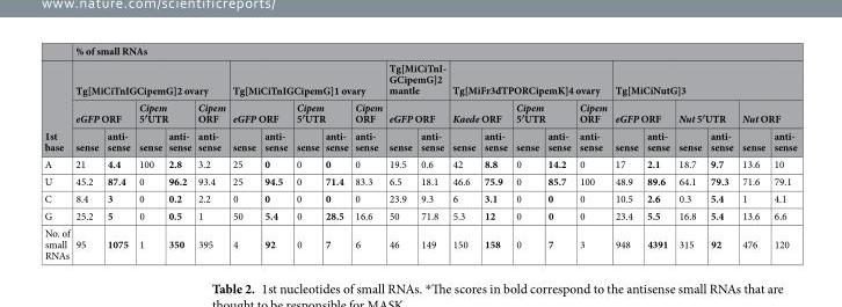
<table><thead><tr><td rowspan="4">1st base</td><td colspan="23">% of small RNAs</td></tr><tr><td colspan="5">Tg[MiCiTnIGCipemG]2 ovary</td><td colspan="5">Tg[MiCiTnIGCipemG]1 ovary</td><td rowspan="2" colspan="2">Tg[MiCiTnI- GCipemG]2 mantle eGFP ORF</td><td colspan="5">Tg[MiFr3dTPORCipemK]4 ovary</td><td colspan="6">Tg[MiCiNutG]3</td></tr><tr><td colspan="2">eGFP ORF</td><td colspan="2">Cipem 5′UTR</td><td rowspan="2">Cipem ORF anti- sense</td><td colspan="2">eGFP ORF</td><td colspan="2">Cipem 5′UTR</td><td rowspan="2">Cipem ORF anti- sense</td><td colspan="2">Kaede ORF</td><td colspan="2">Cipem 5′UTR</td><td rowspan="2">Cipem ORF anti- sense</td><td colspan="2">eGFP ORF</td><td colspan="2">Nut 5′UTR</td><td colspan="2">Nut ORF</td></tr><tr><td>sense</td><td>anti- sense</td><td>sense</td><td>anti- sense</td><td>sense</td><td>anti- sense</td><td>sense</td><td>anti- sense</td><td>sense</td><td>anti- sense</td><td>sense</td><td>anti- sense</td><td>sense</td><td>anti- sense</td><td>sense</td><td>anti- sense</td><td>sense</td><td>anti- sense</td><td>sense</td><td>anti- sense</td></tr></thead><tbody><tr><td>A</td><td>21</td><td>4.4</td><td>100</td><td>2.8</td><td>3.2</td><td>25</td><td>0</td><td>0</td><td>0</td><td>0</td><td>19.5</td><td>0.6</td><td>42</td><td>8.8</td><td>0</td><td>14.2</td><td>0</td><td>17</td><td>2.1</td><td>18.7</td><td>9.7</td><td>13.6</td><td>10</td></tr><tr><td>U</td><td>45.2</td><td>87.4</td><td>0</td><td>96.2</td><td>93.4</td><td>25</td><td>94.5</td><td>0</td><td>71.4</td><td>83.3</td><td>6.5</td><td>18.1</td><td>46.6</td><td>75.9</td><td>0</td><td>85.7</td><td>100</td><td>48.9</td><td>89.6</td><td>64.1</td><td>79.3</td><td>71.6</td><td>79.1</td></tr><tr><td>C</td><td>8.4</td><td>3</td><td>0</td><td>0.2</td><td>2.2</td><td>0</td><td>0</td><td>0</td><td>0</td><td>0</td><td>23.9</td><td>9.3</td><td>6</td><td>3.1</td><td>0</td><td>0</td><td>0</td><td>10.5</td><td>2.6</td><td>0.3</td><td>5.4</td><td>1</td><td>4.1</td></tr><tr><td>G</td><td>25.2</td><td>5</td><td>0</td><td>0.5</td><td>1</td><td>50</td><td>5.4</td><td>0</td><td>28.5</td><td>16.6</td><td>50</td><td>71.8</td><td>5.3</td><td>12</td><td>0</td><td>0</td><td>0</td><td>23.4</td><td>5.5</td><td>16.8</td><td>5.4</td><td>13.6</td><td>6.6</td></tr><tr><td>No. of small RNAs</td><td>95</td><td>1075</td><td>1</td><td>350</td><td>395</td><td>4</td><td>92</td><td>0</td><td>7</td><td>6</td><td>46</td><td>149</td><td>150</td><td>158</td><td>0</td><td>7</td><td>3</td><td>948</td><td>4391</td><td>315</td><td>92</td><td>476</td><td>120</td></tr></tbody></table>